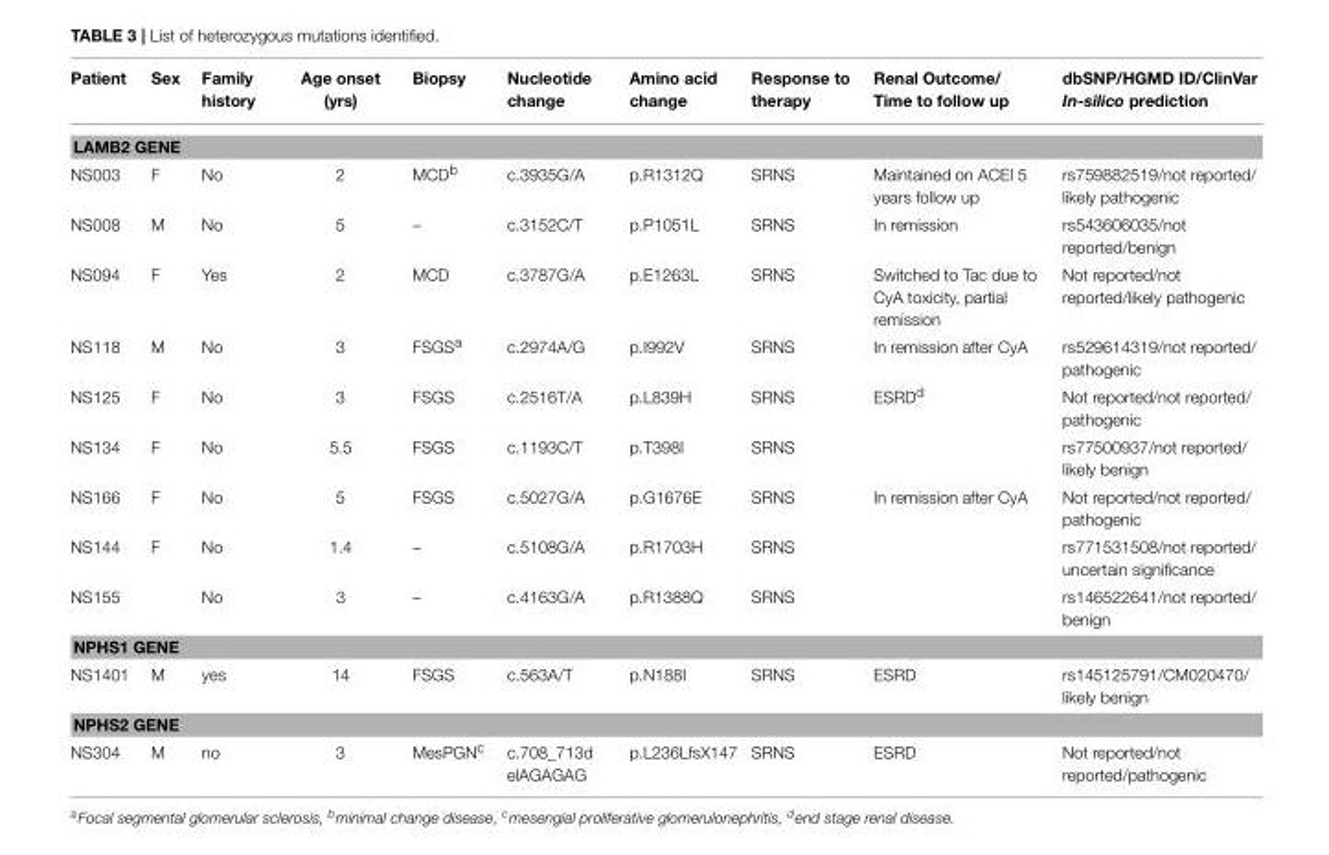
<table><thead><tr><td>Patient</td><td>Sex</td><td>Family history</td><td>Age onset (yrs)</td><td>Biopsy</td><td>Nucleotide change</td><td>Amino acid change</td><td>Response to therapy</td><td>Renal Outcome/ Time to follow up</td><td>dbSNP/HGMD ID/ClinVar In-silico prediction</td></tr></thead><tbody><tr><td colspan="10">LAMB2 GENE</td></tr><tr><td>NS003</td><td>F</td><td>No</td><td>2</td><td>MCD<sup>b</sup></td><td>c.3935G/A</td><td>p.R1312Q</td><td>SRNS</td><td>Maintained on ACEI 5 years follow up</td><td>rs759882519/not reported/ likely pathogenic</td></tr><tr><td>NS008</td><td>M</td><td>No</td><td>5</td><td>–</td><td>c.3152C/T</td><td>p.P1051L</td><td>SRNS</td><td>In remission</td><td>rs543606035/not reported/benign</td></tr><tr><td>NS094</td><td>F</td><td>Yes</td><td>2</td><td>MCD</td><td>c.3787G/A</td><td>p.E1263L</td><td>SRNS</td><td>Switched to Tac due to CyA toxicity, partial remission</td><td>Not reported/not reported/likely pathogenic</td></tr><tr><td>NS118</td><td>M</td><td>No</td><td>3</td><td>FSGS<sup>a</sup></td><td>c.2974A/G</td><td>p.I992V</td><td>SRNS</td><td>In remission after CyA</td><td>rs529614319/not reported/ pathogenic</td></tr><tr><td>NS125</td><td>F</td><td>No</td><td>3</td><td>FSGS</td><td>c.2516T/A</td><td>p.L839H</td><td>SRNS</td><td>ESRD<sup>d</sup></td><td>Not reported/not reported/ pathogenic</td></tr><tr><td>NS134</td><td>F</td><td>No</td><td>5.5</td><td>FSGS</td><td>c.1193C/T</td><td>p.T398I</td><td>SRNS</td><td></td><td>rs77500937/not reported/ likely benign</td></tr><tr><td>NS166</td><td>F</td><td>No</td><td>5</td><td>FSGS</td><td>c.5027G/A</td><td>p.G1676E</td><td>SRNS</td><td>In remission after CyA</td><td>Not reported/not reported/ pathogenic</td></tr><tr><td>NS144</td><td>F</td><td>No</td><td>1.4</td><td>–</td><td>c.5108G/A</td><td>p.R1703H</td><td>SRNS</td><td></td><td>rs771531508/not reported/ uncertain significance</td></tr><tr><td>NS155</td><td></td><td>No</td><td>3</td><td>–</td><td>c.4163G/A</td><td>p.R1388Q</td><td>SRNS</td><td></td><td>rs146522641/not reported/ benign</td></tr><tr><td colspan="10">NPHS1 GENE</td></tr><tr><td>NS1401</td><td>M</td><td>yes</td><td>14</td><td>FSGS</td><td>c.563A/T</td><td>p.N188I</td><td>SRNS</td><td>ESRD</td><td>rs145125791/CM020470/ likely benign</td></tr><tr><td colspan="10">NPHS2 GENE</td></tr><tr><td>NS304</td><td>M</td><td>no</td><td>3</td><td>MesPGN<sup>c</sup></td><td>c.708_713d elAGAGAG</td><td>p.L236LfsX147</td><td>SRNS</td><td>ESRD</td><td>Not reported/not reported/pathogenic</td></tr></tbody></table>